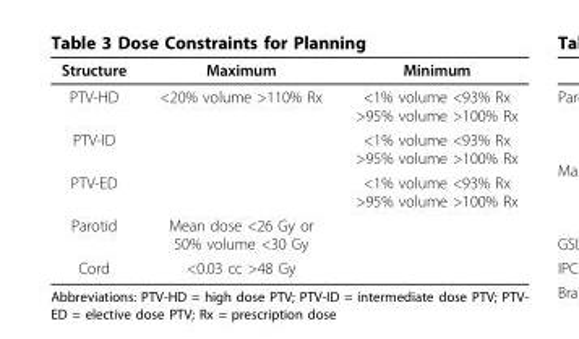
<table><thead><tr><td>Structure</td><td>Maximum</td><td>Minimum</td></tr></thead><tbody><tr><td>PTV-HD</td><td>&lt;20% volume &gt;110% Rx</td><td>&lt;1% volume &lt;93% Rx &gt;95% volume &gt;100% Rx</td></tr><tr><td>PTV-ID</td><td></td><td>&lt;1% volume &lt;93% Rx &gt;95% volume &gt;100% Rx</td></tr><tr><td>PTV-ED</td><td></td><td>&lt;1% volume &lt;93% Rx &gt;95% volume &gt;100% Rx</td></tr><tr><td>Parotid</td><td>Mean dose &lt;26 Gy or 50% volume &lt;30 Gy</td><td></td></tr><tr><td>Cord</td><td>&lt;0.03 cc &gt;48 Gy</td><td></td></tr></tbody></table>